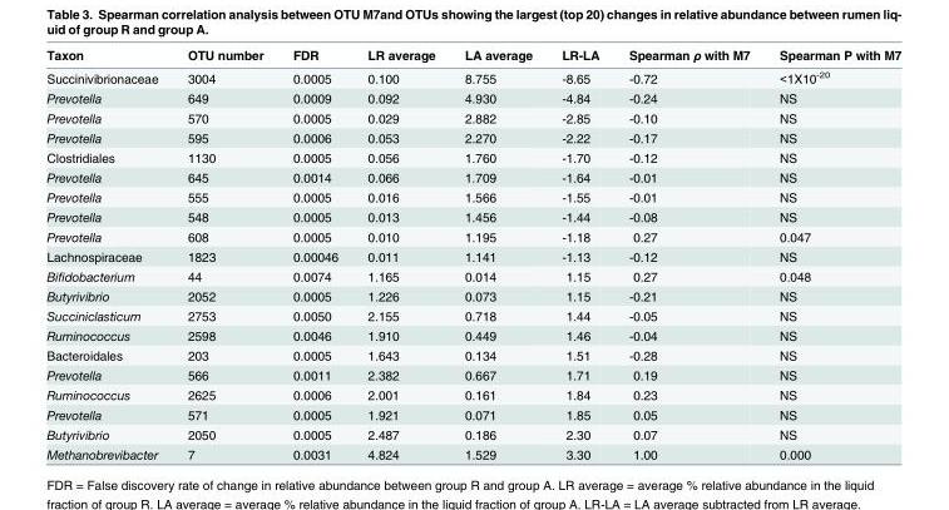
<table><thead><tr><td>Taxon</td><td>OTU number</td><td>FDR</td><td>LR average</td><td>LA average</td><td>LR-LA</td><td>Spearman ρ with M7</td><td>Spearman P with M7</td></tr></thead><tbody><tr><td>Succinivibrionaceae</td><td>3004</td><td>0.0005</td><td>0.100</td><td>8.755</td><td>-8.65</td><td>-0.72</td><td>&lt;1X10<sup>-20</sup></td></tr><tr><td>Prevotella</td><td>649</td><td>0.0009</td><td>0.092</td><td>4.930</td><td>-4.84</td><td>-0.24</td><td>NS</td></tr><tr><td>Prevotella</td><td>570</td><td>0.0005</td><td>0.029</td><td>2.882</td><td>-2.85</td><td>-0.10</td><td>NS</td></tr><tr><td>Prevotella</td><td>595</td><td>0.0006</td><td>0.053</td><td>2.270</td><td>-2.22</td><td>-0.17</td><td>NS</td></tr><tr><td>Clostridiales</td><td>1130</td><td>0.0005</td><td>0.056</td><td>1.760</td><td>-1.70</td><td>-0.12</td><td>NS</td></tr><tr><td>Prevotella</td><td>645</td><td>0.0014</td><td>0.066</td><td>1.709</td><td>-1.64</td><td>-0.01</td><td>NS</td></tr><tr><td>Prevotella</td><td>555</td><td>0.0005</td><td>0.016</td><td>1.566</td><td>-1.55</td><td>-0.01</td><td>NS</td></tr><tr><td>Prevotella</td><td>548</td><td>0.0005</td><td>0.013</td><td>1.456</td><td>-1.44</td><td>-0.08</td><td>NS</td></tr><tr><td>Prevotella</td><td>608</td><td>0.0005</td><td>0.010</td><td>1.195</td><td>-1.18</td><td>0.27</td><td>0.047</td></tr><tr><td>Lachnospiraceae</td><td>1823</td><td>0.00046</td><td>0.011</td><td>1.141</td><td>-1.13</td><td>-0.12</td><td>NS</td></tr><tr><td>Bifidobacterium</td><td>44</td><td>0.0074</td><td>1.165</td><td>0.014</td><td>1.15</td><td>0.27</td><td>0.048</td></tr><tr><td>Butyrivibrio</td><td>2052</td><td>0.0005</td><td>1.226</td><td>0.073</td><td>1.15</td><td>-0.21</td><td>NS</td></tr><tr><td>Succiniclasticum</td><td>2753</td><td>0.0050</td><td>2.155</td><td>0.718</td><td>1.44</td><td>-0.05</td><td>NS</td></tr><tr><td>Ruminococcus</td><td>2598</td><td>0.0046</td><td>1.910</td><td>0.449</td><td>1.46</td><td>-0.04</td><td>NS</td></tr><tr><td>Bacteroidales</td><td>203</td><td>0.0005</td><td>1.643</td><td>0.134</td><td>1.51</td><td>-0.28</td><td>NS</td></tr><tr><td>Prevotella</td><td>566</td><td>0.0011</td><td>2.382</td><td>0.667</td><td>1.71</td><td>0.19</td><td>NS</td></tr><tr><td>Ruminococcus</td><td>2625</td><td>0.0006</td><td>2.001</td><td>0.161</td><td>1.84</td><td>0.23</td><td>NS</td></tr><tr><td>Prevotella</td><td>571</td><td>0.0005</td><td>1.921</td><td>0.071</td><td>1.85</td><td>0.05</td><td>NS</td></tr><tr><td>Butyrivibrio</td><td>2050</td><td>0.0005</td><td>2.487</td><td>0.186</td><td>2.30</td><td>0.07</td><td>NS</td></tr><tr><td>Methanobrevibacter</td><td>7</td><td>0.0031</td><td>4.824</td><td>1.529</td><td>3.30</td><td>1.00</td><td>0.000</td></tr></tbody></table>